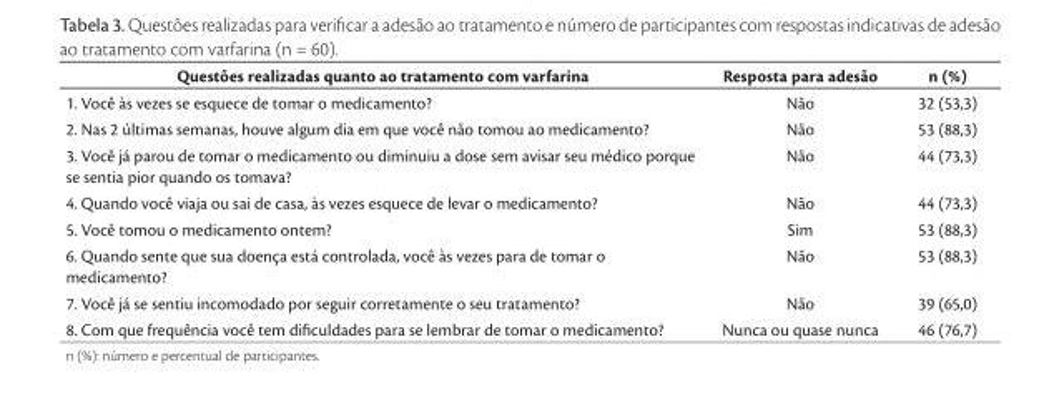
<table><thead><tr><td>Questões realizadas quanto ao tratamento com varfarina</td><td>Resposta para adesão</td><td>n (%)</td></tr></thead><tbody><tr><td>1. Você às vezes se esquece de tomar o medicamento?</td><td>Não</td><td>32 (53,3)</td></tr><tr><td>2. Nas 2 últimas semanas, houve algum dia em que você não tomou ao medicamento?</td><td>Não</td><td>53 (88,3)</td></tr><tr><td>3. Você já parou de tomar o medicamento ou diminuiu a dose sem avisar seu médico porque se sentia pior quando os tomava?</td><td>Não</td><td>44 (73,3)</td></tr><tr><td>4. Quando você viaja ou sai de casa, às vezes esquece de levar o medicamento?</td><td>Não</td><td>44 (73,3)</td></tr><tr><td>5. Você tomou o medicamento ontem?</td><td>Sim</td><td>53 (88,3)</td></tr><tr><td>6. Quando sente que sua doença está controlada, você às vezes para de tomar o medicamento?</td><td>Não</td><td>53 (88,3)</td></tr><tr><td>7. Você já se sentiu incomodado por seguir corretamente o seu tratamento?</td><td>Não</td><td>39 (65,0)</td></tr><tr><td>8. Com que frequência você tem dificuldades para se lembrar de tomar o medicamento?</td><td>Nunca ou quase nunca</td><td>46 (76,7)</td></tr></tbody></table>